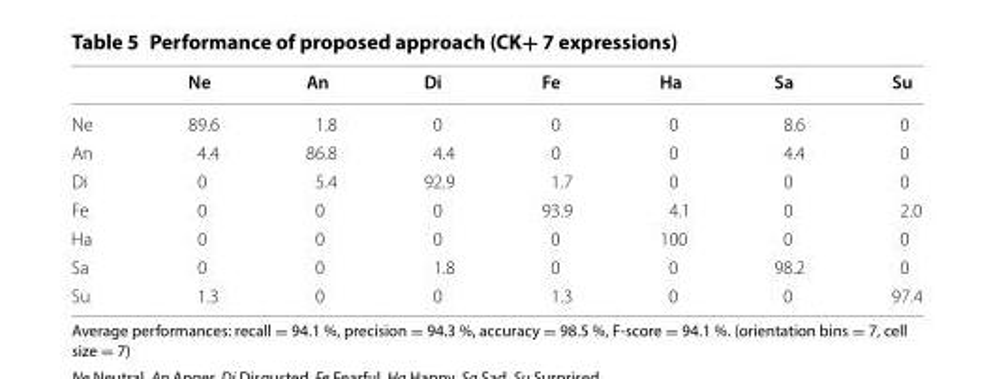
<table><thead><tr><td></td><td>Ne</td><td>An</td><td>Di</td><td>Fe</td><td>Ha</td><td>Sa</td><td>Su</td></tr></thead><tbody><tr><td>Ne</td><td>89.6</td><td>1.8</td><td>0</td><td>0</td><td>0</td><td>8.6</td><td>0</td></tr><tr><td>An</td><td>4.4</td><td>86.8</td><td>4.4</td><td>0</td><td>0</td><td>4.4</td><td>0</td></tr><tr><td>Di</td><td>0</td><td>5.4</td><td>92.9</td><td>1.7</td><td>0</td><td>0</td><td>0</td></tr><tr><td>Fe</td><td>0</td><td>0</td><td>0</td><td>93.9</td><td>4.1</td><td>0</td><td>2.0</td></tr><tr><td>Ha</td><td>0</td><td>0</td><td>0</td><td>0</td><td>100</td><td>0</td><td>0</td></tr><tr><td>Sa</td><td>0</td><td>0</td><td>1.8</td><td>0</td><td>0</td><td>98.2</td><td>0</td></tr><tr><td>Su</td><td>1.3</td><td>0</td><td>0</td><td>1.3</td><td>0</td><td>0</td><td>97.4</td></tr></tbody></table>